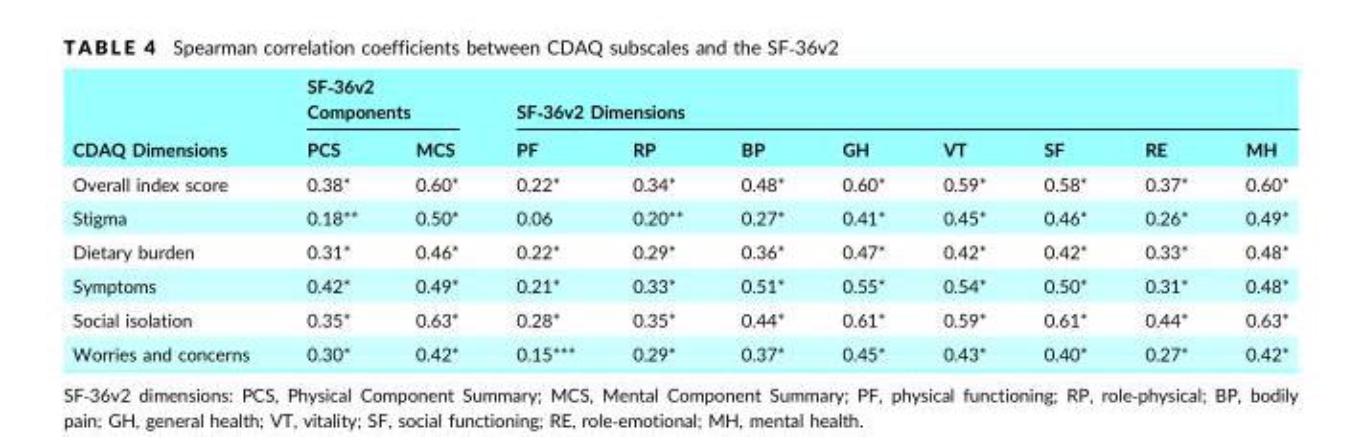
<table><thead><tr><td rowspan="2">CDAQ Dimensions</td><td colspan="2">SF‐36v2 Components</td><td colspan="8">SF‐36v2 Dimensions</td></tr><tr><td>PCS</td><td>MCS</td><td>PF</td><td>RP</td><td>BP</td><td>GH</td><td>VT</td><td>SF</td><td>RE</td><td>MH</td></tr></thead><tbody><tr><td>Overall index score</td><td>0.38*</td><td>0.60*</td><td>0.22*</td><td>0.34*</td><td>0.48*</td><td>0.60*</td><td>0.59*</td><td>0.58*</td><td>0.37*</td><td>0.60*</td></tr><tr><td>Stigma</td><td>0.18**</td><td>0.50*</td><td>0.06</td><td>0.20**</td><td>0.27*</td><td>0.41*</td><td>0.45*</td><td>0.46*</td><td>0.26*</td><td>0.49*</td></tr><tr><td>Dietary burden</td><td>0.31*</td><td>0.46*</td><td>0.22*</td><td>0.29*</td><td>0.36*</td><td>0.47*</td><td>0.42*</td><td>0.42*</td><td>0.33*</td><td>0.48*</td></tr><tr><td>Symptoms</td><td>0.42*</td><td>0.49*</td><td>0.21*</td><td>0.33*</td><td>0.51*</td><td>0.55*</td><td>0.54*</td><td>0.50*</td><td>0.31*</td><td>0.48*</td></tr><tr><td>Social isolation</td><td>0.35*</td><td>0.63*</td><td>0.28*</td><td>0.35*</td><td>0.44*</td><td>0.61*</td><td>0.59*</td><td>0.61*</td><td>0.44*</td><td>0.63*</td></tr><tr><td>Worries and concerns</td><td>0.30*</td><td>0.42*</td><td>0.15***</td><td>0.29*</td><td>0.37*</td><td>0.45*</td><td>0.43*</td><td>0.40*</td><td>0.27*</td><td>0.42*</td></tr></tbody></table>